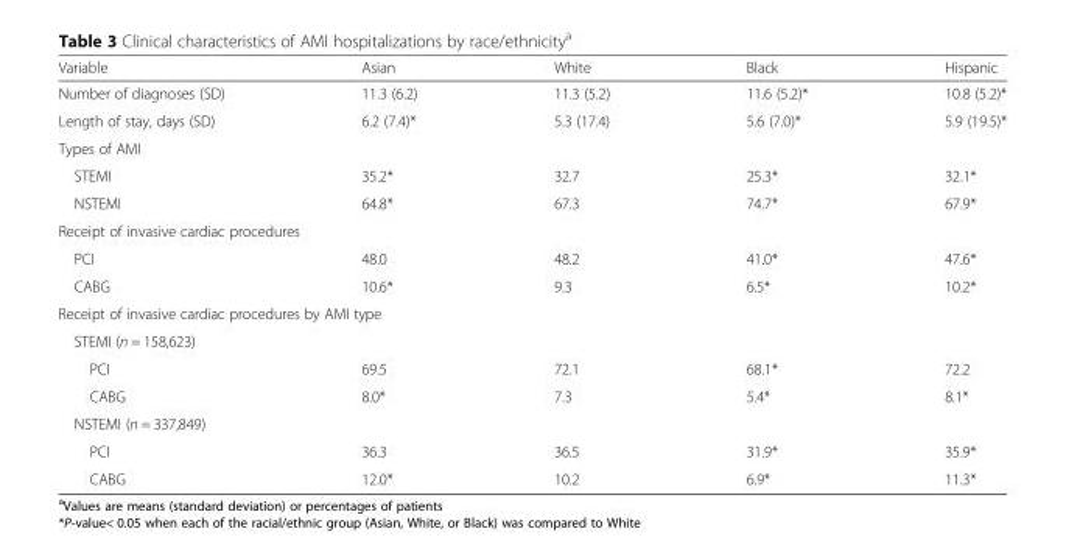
<table><thead><tr><td>Variable</td><td>Asian</td><td>White</td><td>Black</td><td>Hispanic</td></tr></thead><tbody><tr><td>Number of diagnoses (SD)</td><td>11.3 (6.2)</td><td>11.3 (5.2)</td><td>11.6 (5.2)*</td><td>10.8 (5.2)*</td></tr><tr><td>Length of stay, days (SD)</td><td>6.2 (7.4)*</td><td>5.3 (17.4)</td><td>5.6 (7.0)*</td><td>5.9 (19.5)*</td></tr><tr><td colspan="5">Types of AMI</td></tr><tr><td>STEMI</td><td>35.2*</td><td>32.7</td><td>25.3*</td><td>32.1*</td></tr><tr><td>NSTEMI</td><td>64.8*</td><td>67.3</td><td>74.7*</td><td>67.9*</td></tr><tr><td colspan="5">Receipt of invasive cardiac procedures</td></tr><tr><td>PCI</td><td>48.0</td><td>48.2</td><td>41.0*</td><td>47.6*</td></tr><tr><td>CABG</td><td>10.6*</td><td>9.3</td><td>6.5*</td><td>10.2*</td></tr><tr><td colspan="5">Receipt of invasive cardiac procedures by AMI type</td></tr><tr><td colspan="5">STEMI (n = 158,623)</td></tr><tr><td>PCI</td><td>69.5</td><td>72.1</td><td>68.1*</td><td>72.2</td></tr><tr><td>CABG</td><td>8.0*</td><td>7.3</td><td>5.4*</td><td>8.1*</td></tr><tr><td colspan="5">NSTEMI (n = 337,849)</td></tr><tr><td>PCI</td><td>36.3</td><td>36.5</td><td>31.9*</td><td>35.9*</td></tr><tr><td>CABG</td><td>12.0*</td><td>10.2</td><td>6.9*</td><td>11.3*</td></tr></tbody></table>